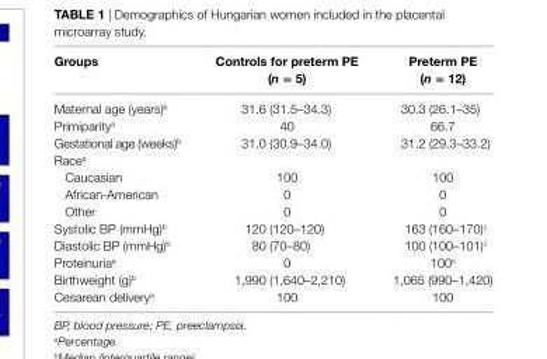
<table><thead><tr><td>groups</td><td>controls for preterm Pe (n = 5)</td><td>Preterm Pe (n = 12)</td></tr></thead><tbody><tr><td>Maternal age (years)<sup>b</sup></td><td>31.6 (31.5–34.3)</td><td>30.3 (26.1–35)</td></tr><tr><td>Primiparity<sup>a</sup></td><td>40</td><td>66.7</td></tr><tr><td>Gestational age (weeks)<sup>b</sup></td><td>31.0 (30.9–34.0)</td><td>31.2 (29.3–33.2)</td></tr><tr><td colspan="3">Race<sup>a</sup></td></tr><tr><td>Caucasian</td><td>100</td><td>100</td></tr><tr><td>African-American</td><td>0</td><td>0</td></tr><tr><td>Other</td><td>0</td><td>0</td></tr><tr><td>Systolic BP (mmHg)<sup>b</sup></td><td>120 (120–120)</td><td>163 (160–170)<sup>c</sup></td></tr><tr><td>Diastolic BP (mmHg)<sup>b</sup></td><td>80 (70–80)</td><td>100 (100–101)<sup>c</sup></td></tr><tr><td>Proteinuria<sup>a</sup></td><td>0</td><td>100<sup>c</sup></td></tr><tr><td>Birthweight (g)<sup>b</sup></td><td>1,990 (1,640–2,210)</td><td>1,065 (990–1,420)</td></tr><tr><td>Cesarean delivery<sup>a</sup></td><td>100</td><td>100</td></tr></tbody></table>